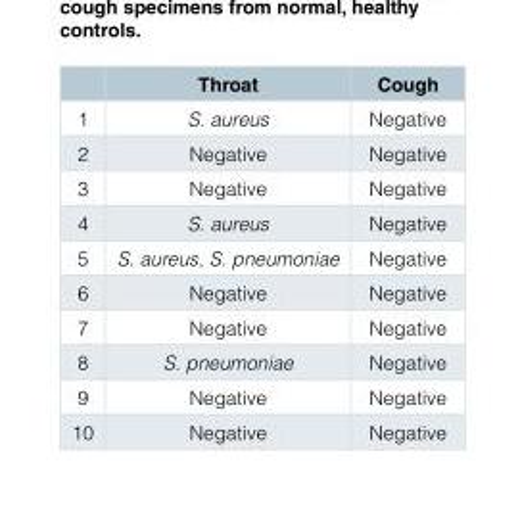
<table><thead><tr><td></td><td>Throat</td><td>Cough</td></tr></thead><tbody><tr><td>1</td><td>S. aureus</td><td>Negative</td></tr><tr><td>2</td><td>Negative</td><td>Negative</td></tr><tr><td>3</td><td>Negative</td><td>Negative</td></tr><tr><td>4</td><td>S. aureus</td><td>Negative</td></tr><tr><td>5</td><td>S. aureus, S. pneumoniae</td><td>Negative</td></tr><tr><td>6</td><td>Negative</td><td>Negative</td></tr><tr><td>7</td><td>Negative</td><td>Negative</td></tr><tr><td>8</td><td>S. pneumoniae</td><td>Negative</td></tr><tr><td>9</td><td>Negative</td><td>Negative</td></tr><tr><td>10</td><td>Negative</td><td>Negative</td></tr></tbody></table>